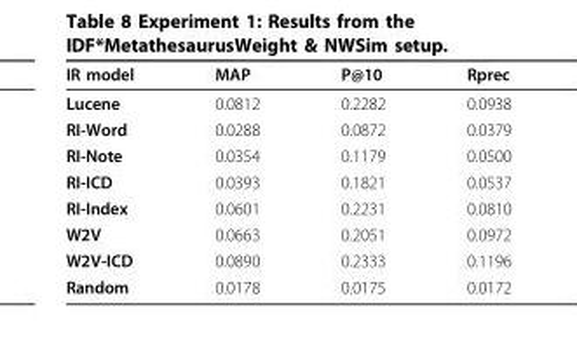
<table><thead><tr><td>IR model</td><td>MAP</td><td>P@10</td><td>Rprec</td></tr></thead><tbody><tr><td>Lucene</td><td>0.0812</td><td>0.2282</td><td>0.0938</td></tr><tr><td>RI-Word</td><td>0.0288</td><td>0.0872</td><td>0.0379</td></tr><tr><td>RI-Note</td><td>0.0354</td><td>0.1179</td><td>0.0500</td></tr><tr><td>RI-ICD</td><td>0.0393</td><td>0.1821</td><td>0.0537</td></tr><tr><td>RI-Index</td><td>0.0601</td><td>0.2231</td><td>0.0810</td></tr><tr><td>W2V</td><td>0.0663</td><td>0.2051</td><td>0.0972</td></tr><tr><td>W2V-ICD</td><td>0.0890</td><td>0.2333</td><td>0.1196</td></tr><tr><td>Random</td><td>0.0178</td><td>0.0175</td><td>0.0172</td></tr></tbody></table>